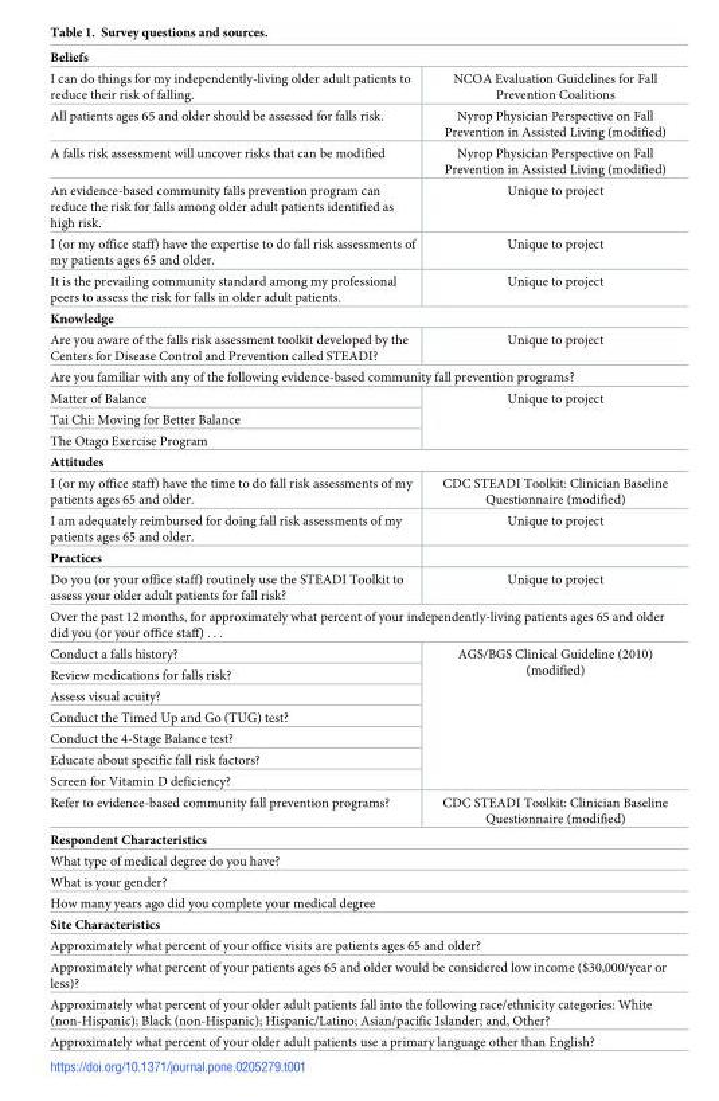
<table><tbody><tr><td colspan="2">Beliefs</td></tr><tr><td>I can do things for my independently-living older adult patients to reduce their risk of falling.</td><td>NCOA Evaluation Guidelines for Fall Prevention Coalitions</td></tr><tr><td>All patients ages 65 and older should be assessed for falls risk.</td><td>Nyrop Physician Perspective on Fall Prevention in Assisted Living (modified)</td></tr><tr><td>A falls risk assessment will uncover risks that can be modified</td><td>Nyrop Physician Perspective on Fall Prevention in Assisted Living (modified)</td></tr><tr><td>An evidence-based community falls prevention program can reduce the risk for falls among older adult patients identified as high risk.</td><td>Unique to project</td></tr><tr><td>I (or my office staff) have the expertise to do fall risk assessments of my patients ages 65 and older.</td><td>Unique to project</td></tr><tr><td>It is the prevailing community standard among my professional peers to assess the risk for falls in older adult patients.</td><td>Unique to project</td></tr><tr><td colspan="2">Knowledge</td></tr><tr><td>Are you aware of the falls risk assessment toolkit developed by the Centers for Disease Control and Prevention called STEADI?</td><td>Unique to project</td></tr><tr><td colspan="2">Are you familiar with any of the following evidence-based community fall prevention programs?</td></tr><tr><td>Matter of Balance</td><td rowspan="3">Unique to project</td></tr><tr><td>Tai Chi: Moving for Better Balance</td></tr><tr><td>The Otago Exercise Program</td></tr><tr><td colspan="2">Attitudes</td></tr><tr><td>I (or my office staff) have the time to do fall risk assessments of my patients ages 65 and older.</td><td>CDC STEADI Toolkit: Clinician Baseline Questionnaire (modified)</td></tr><tr><td>I am adequately reimbursed for doing fall risk assessments of my patients ages 65 and older.</td><td>Unique to project</td></tr><tr><td colspan="2">Practices</td></tr><tr><td>Do you (or your office staff) routinely use the STEADI Toolkit to assess your older adult patients for fall risk?</td><td>Unique to project</td></tr><tr><td colspan="2">Over the past 12 months, for approximately what percent of your independently-living patients ages 65 and older did you (or your office staff) . . .</td></tr><tr><td>Conduct a falls history?</td><td rowspan="7">AGS/BGS Clinical Guideline (2010) (modified)</td></tr><tr><td>Review medications for falls risk?</td></tr><tr><td>Assess visual acuity?</td></tr><tr><td>Conduct the Timed Up and Go (TUG) test?</td></tr><tr><td>Conduct the 4-Stage Balance test?</td></tr><tr><td>Educate about specific fall risk factors?</td></tr><tr><td>Screen for Vitamin D deficiency?</td></tr><tr><td>Refer to evidence-based community fall prevention programs?</td><td>CDC STEADI Toolkit: Clinician Baseline Questionnaire (modified)</td></tr><tr><td colspan="2">Respondent Characteristics</td></tr><tr><td colspan="2">What type of medical degree do you have?</td></tr><tr><td colspan="2">What is your gender?</td></tr><tr><td colspan="2">How many years ago did you complete your medical degree</td></tr><tr><td colspan="2">Site Characteristics</td></tr><tr><td colspan="2">Approximately what percent of your office visits are patients ages 65 and older?</td></tr><tr><td colspan="2">Approximately what percent of your patients ages 65 and older would be considered low income ($30,000/year or less)?</td></tr><tr><td colspan="2">Approximately what percent of your older adult patients fall into the following race/ethnicity categories: White (non-Hispanic); Black (non-Hispanic); Hispanic/Latino; Asian/pacific Islander; and, Other?</td></tr><tr><td colspan="2">Approximately what percent of your older adult patients use a primary language other than English?</td></tr></tbody></table>